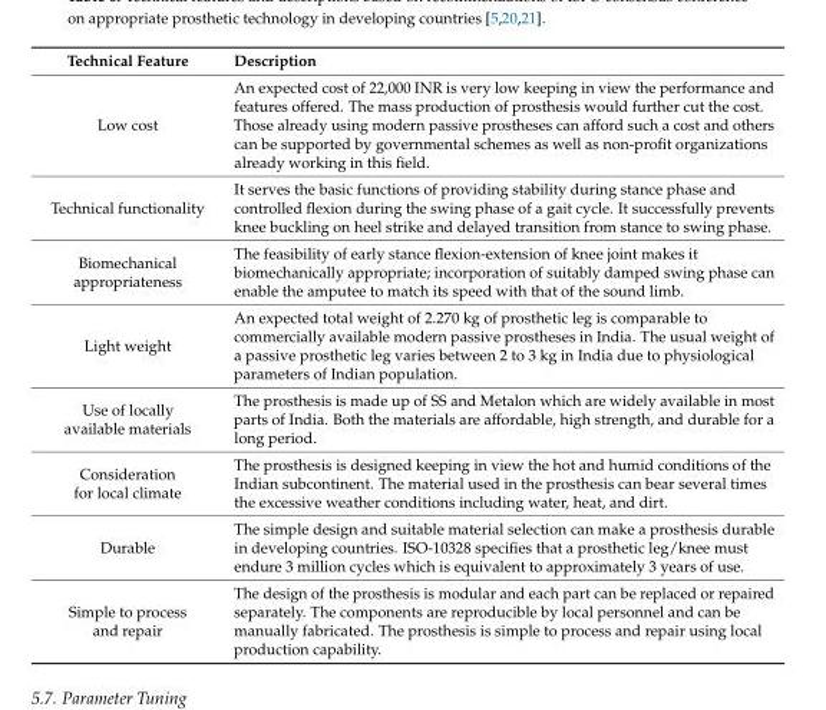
<table><thead><tr><td>Technical Feature</td><td>Description</td></tr></thead><tbody><tr><td>Low cost</td><td>An expected cost of 22,000 INR is very low keeping in view the performance and features offered. The mass production of prosthesis would further cut the cost. Those already using modern passive prostheses can afford such a cost and others can be supported by governmental schemes as well as non-profit organizations already working in this field.</td></tr><tr><td>Technical functionality</td><td>It serves the basic functions of providing stability during stance phase and controlled flexion during the swing phase of a gait cycle. It successfully prevents knee buckling on heel strike and delayed transition from stance to swing phase.</td></tr><tr><td>Biomechanical appropriateness</td><td>The feasibility of early stance flexion-extension of knee joint makes it biomechanically appropriate; incorporation of suitably damped swing phase can enable the amputee to match its speed with that of the sound limb.</td></tr><tr><td>Light weight</td><td>An expected total weight of 2.270 kg of prosthetic leg is comparable to commercially available modern passive prostheses in India. The usual weight of a passive prosthetic leg varies between 2 to 3 kg in India due to physiological parameters of Indian population.</td></tr><tr><td>Use of locally available materials</td><td>The prosthesis is made up of SS and Metalon which are widely available in most parts of India. Both the materials are affordable, high strength, and durable for a long period.</td></tr><tr><td>Consideration for local climate</td><td>The prosthesis is designed keeping in view the hot and humid conditions of the Indian subcontinent. The material used in the prosthesis can bear several times the excessive weather conditions including water, heat, and dirt.</td></tr><tr><td>Durable</td><td>The simple design and suitable material selection can make a prosthesis durable in developing countries. ISO-10328 specifies that a prosthetic leg/knee must endure 3 million cycles which is equivalent to approximately 3 years of use.</td></tr><tr><td>Simple to process and repair</td><td>The design of the prosthesis is modular and each part can be replaced or repaired separately. The components are reproducible by local personnel and can be manually fabricated. The prosthesis is simple to process and repair using local production capability.</td></tr></tbody></table>